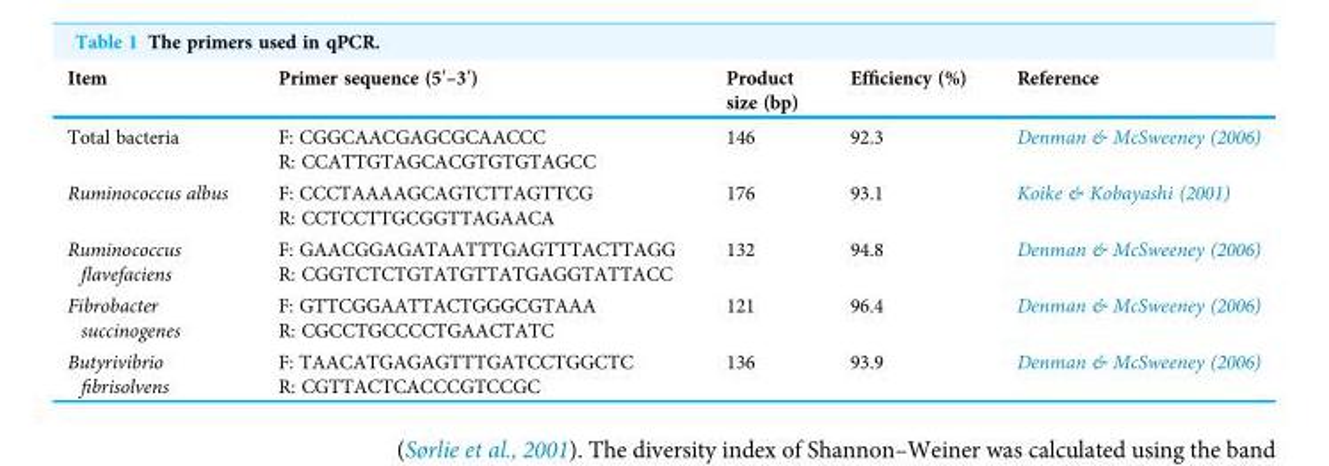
<table><thead><tr><td>Item</td><td>Primer sequence (5′–3′)</td><td>Product size (bp)</td><td>Efficiency (%)</td><td>Reference</td></tr></thead><tbody><tr><td>Total bacteria</td><td>F: CGGCAACGAGCGCAACCC R: CCATTGTAGCACGTGTGTAGCC</td><td>146</td><td>92.3</td><td>Denman &amp; McSweeney (2006)</td></tr><tr><td>Ruminococcus albus</td><td>F: CCCTAAAAGCAGTCTTAGTTCG R: CCTCCTTGCGGTTAGAACA</td><td>176</td><td>93.1</td><td>Koike &amp; Kobayashi (2001)</td></tr><tr><td>Ruminococcus flavefaciens</td><td>F: GAACGGAGATAATTTGAGTTTACTTAGG R: CGGTCTCTGTATGTTATGAGGTATTACC</td><td>132</td><td>94.8</td><td>Denman &amp; McSweeney (2006)</td></tr><tr><td>Fibrobacter succinogenes</td><td>F: GTTCGGAATTACTGGGCGTAAA R: CGCCTGCCCCTGAACTATC</td><td>121</td><td>96.4</td><td>Denman &amp; McSweeney (2006)</td></tr><tr><td>Butyrivibrio fibrisolvens</td><td>F: TAACATGAGAGTTTGATCCTGGCTC R: CGTTACTCACCCGTCCGC</td><td>136</td><td>93.9</td><td>Denman &amp; McSweeney (2006)</td></tr></tbody></table>